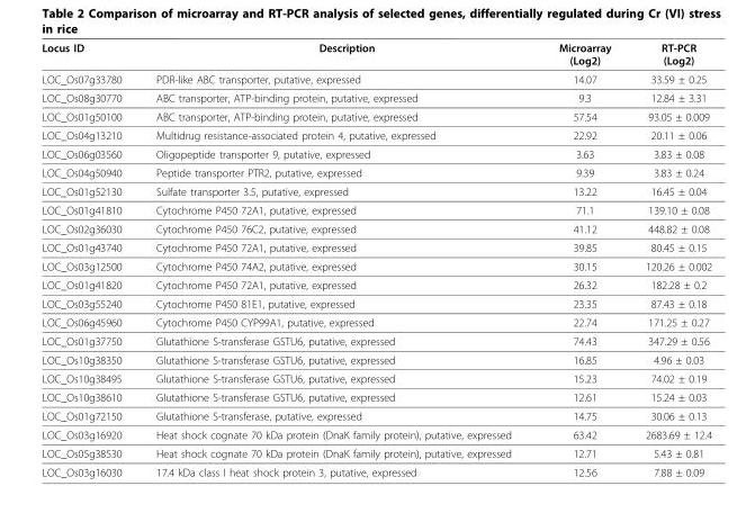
<table><thead><tr><td>Locus ID</td><td>Description</td><td>Microarray (Log2)</td><td>RT-PCR (Log2)</td></tr></thead><tbody><tr><td>LOC_Os07g33780</td><td>PDR-like ABC transporter, putative, expressed</td><td>14.07</td><td>33.59 ± 0.25</td></tr><tr><td>LOC_Os08g30770</td><td>ABC transporter, ATP-binding protein, putative, expressed</td><td>9.3</td><td>12.84 ± 3.31</td></tr><tr><td>LOC_Os01g50100</td><td>ABC transporter, ATP-binding protein, putative, expressed</td><td>57.54</td><td>93.05 ± 0.009</td></tr><tr><td>LOC_Os04g13210</td><td>Multidrug resistance-associated protein 4, putative, expressed</td><td>22.92</td><td>20.11 ± 0.06</td></tr><tr><td>LOC_Os06g03560</td><td>Oligopeptide transporter 9, putative, expressed</td><td>3.63</td><td>3.83 ± 0.08</td></tr><tr><td>LOC_Os04g50940</td><td>Peptide transporter PTR2, putative, expressed</td><td>9.39</td><td>3.83 ± 0.24</td></tr><tr><td>LOC_Os01g52130</td><td>Sulfate transporter 3.5, putative, expressed</td><td>13.22</td><td>16.45 ± 0.04</td></tr><tr><td>LOC_Os01g41810</td><td>Cytochrome P450 72A1, putative, expressed</td><td>71.1</td><td>139.10 ± 0.08</td></tr><tr><td>LOC_Os02g36030</td><td>Cytochrome P450 76C2, putative, expressed</td><td>41.12</td><td>448.82 ± 0.08</td></tr><tr><td>LOC_Os01g43740</td><td>Cytochrome P450 72A1, putative, expressed</td><td>39.85</td><td>80.45 ± 0.15</td></tr><tr><td>LOC_Os03g12500</td><td>Cytochrome P450 74A2, putative, expressed</td><td>30.15</td><td>120.26 ± 0.002</td></tr><tr><td>LOC_Os01g41820</td><td>Cytochrome P450 72A1, putative, expressed</td><td>26.32</td><td>182.28 ± 0.2</td></tr><tr><td>LOC_Os03g55240</td><td>Cytochrome P450 81E1, putative, expressed</td><td>23.35</td><td>87.43 ± 0.18</td></tr><tr><td>LOC_Os06g45960</td><td>Cytochrome P450 CYP99A1, putative, expressed</td><td>22.74</td><td>171.25 ± 0.27</td></tr><tr><td>LOC_Os01g37750</td><td>Glutathione S-transferase GSTU6, putative, expressed</td><td>74.43</td><td>347.29 ± 0.56</td></tr><tr><td>LOC_Os10g38350</td><td>Glutathione S-transferase GSTU6, putative, expressed</td><td>16.85</td><td>4.96 ± 0.03</td></tr><tr><td>LOC_Os10g38495</td><td>Glutathione S-transferase GSTU6, putative, expressed</td><td>15.23</td><td>74.02 ± 0.19</td></tr><tr><td>LOC_Os10g38610</td><td>Glutathione S-transferase GSTU6, putative, expressed</td><td>12.61</td><td>15.24 ± 0.03</td></tr><tr><td>LOC_Os01g72150</td><td>Glutathione S-transferase, putative, expressed</td><td>14.75</td><td>30.06 ± 0.13</td></tr><tr><td>LOC_Os03g16920</td><td>Heat shock cognate 70 kDa protein (DnaK family protein), putative, expressed</td><td>63.42</td><td>2683.69 ± 12.4</td></tr><tr><td>LOC_Os05g38530</td><td>Heat shock cognate 70 kDa protein (DnaK family protein), putative, expressed</td><td>12.71</td><td>5.43 ± 0.81</td></tr><tr><td>LOC_Os03g16030</td><td>17.4 kDa class I heat shock protein 3, putative, expressed</td><td>12.56</td><td>7.88 ± 0.09</td></tr></tbody></table>